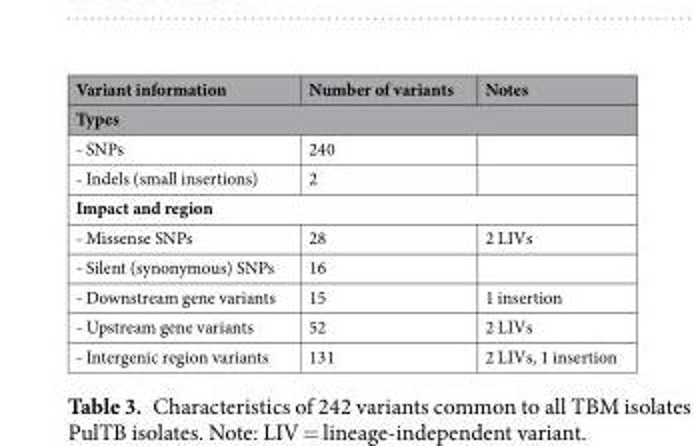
<table><thead><tr><td>Variant information</td><td>Number of variants</td><td>Notes</td></tr><tr><td colspan="3">Types</td></tr></thead><tbody><tr><td>- SNPs</td><td>240</td><td></td></tr><tr><td>- Indels (small insertions)</td><td>2</td><td></td></tr><tr><td colspan="3">Impact and region</td></tr><tr><td>- Missense SNPs</td><td>28</td><td>2 LIVs</td></tr><tr><td>- Silent (synonymous) SNPs</td><td>16</td><td></td></tr><tr><td>- Downstream gene variants</td><td>15</td><td>1 insertion</td></tr><tr><td>- Upstream gene variants</td><td>52</td><td>2 LIVs</td></tr><tr><td>- Intergenic region variants</td><td>131</td><td>2 LIVs, 1 insertion</td></tr></tbody></table>